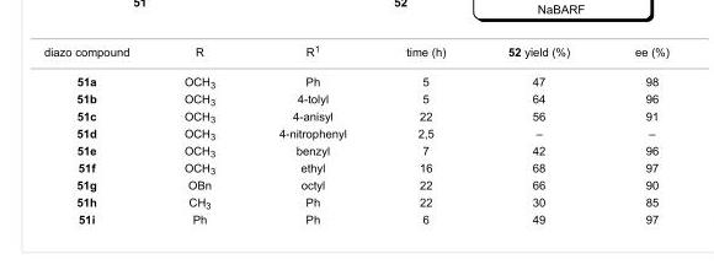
<table><tbody><tr><td>diazo compound</td><td>R</td><td>R<sup>1</sup></td><td>time (h)</td><td>52 yield (%)</td><td>ee (%)</td></tr><tr><td>51a</td><td>OCH<sub>3</sub></td><td>Ph</td><td>5</td><td>47</td><td>98</td></tr><tr><td>51b</td><td>OCH<sub>3</sub></td><td>4-tolyl</td><td>5</td><td>64</td><td>96</td></tr><tr><td>51c</td><td>OCH<sub>3</sub></td><td>4-anisyl</td><td>22</td><td>56</td><td>91</td></tr><tr><td>51d</td><td>OCH<sub>3</sub></td><td>4-nitrophenyl</td><td>2,5</td><td>–</td><td>–</td></tr><tr><td>51e</td><td>OCH<sub>3</sub></td><td>benzyl</td><td>7</td><td>42</td><td>96</td></tr><tr><td>51f</td><td>OCH<sub>3</sub></td><td>ethyl</td><td>16</td><td>68</td><td>97</td></tr><tr><td>51g</td><td>OBn</td><td>octyl</td><td>22</td><td>66</td><td>90</td></tr><tr><td>51h</td><td>CH<sub>3</sub></td><td>Ph</td><td>22</td><td>30</td><td>85</td></tr><tr><td>51i</td><td>Ph</td><td>Ph</td><td>6</td><td>49</td><td>97</td></tr></tbody></table>